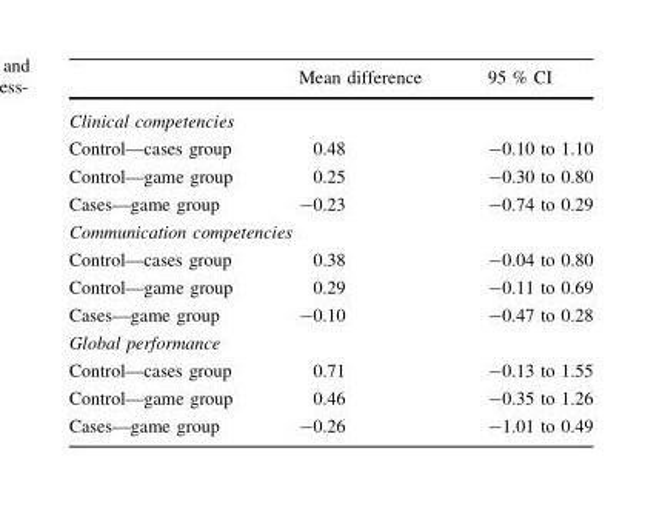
<table><thead><tr><td></td><td>Mean difference</td><td>95 % CI</td></tr></thead><tbody><tr><td colspan="3">Clinical competencies</td></tr><tr><td>Control—cases group</td><td>0.48</td><td>-0.10 to 1.10</td></tr><tr><td>Control—game group</td><td>0.25</td><td>-0.30 to 0.80</td></tr><tr><td>Cases—game group</td><td>-0.23</td><td>-0.74 to 0.29</td></tr><tr><td colspan="3">Communication competencies</td></tr><tr><td>Control—cases group</td><td>0.38</td><td>-0.04 to 0.80</td></tr><tr><td>Control—game group</td><td>0.29</td><td>-0.11 to 0.69</td></tr><tr><td>Cases—game group</td><td>-0.10</td><td>-0.47 to 0.28</td></tr><tr><td colspan="3">Global performance</td></tr><tr><td>Control—cases group</td><td>0.71</td><td>-0.13 to 1.55</td></tr><tr><td>Control—game group</td><td>0.46</td><td>-0.35 to 1.26</td></tr><tr><td>Cases—game group</td><td>-0.26</td><td>-1.01 to 0.49</td></tr></tbody></table>